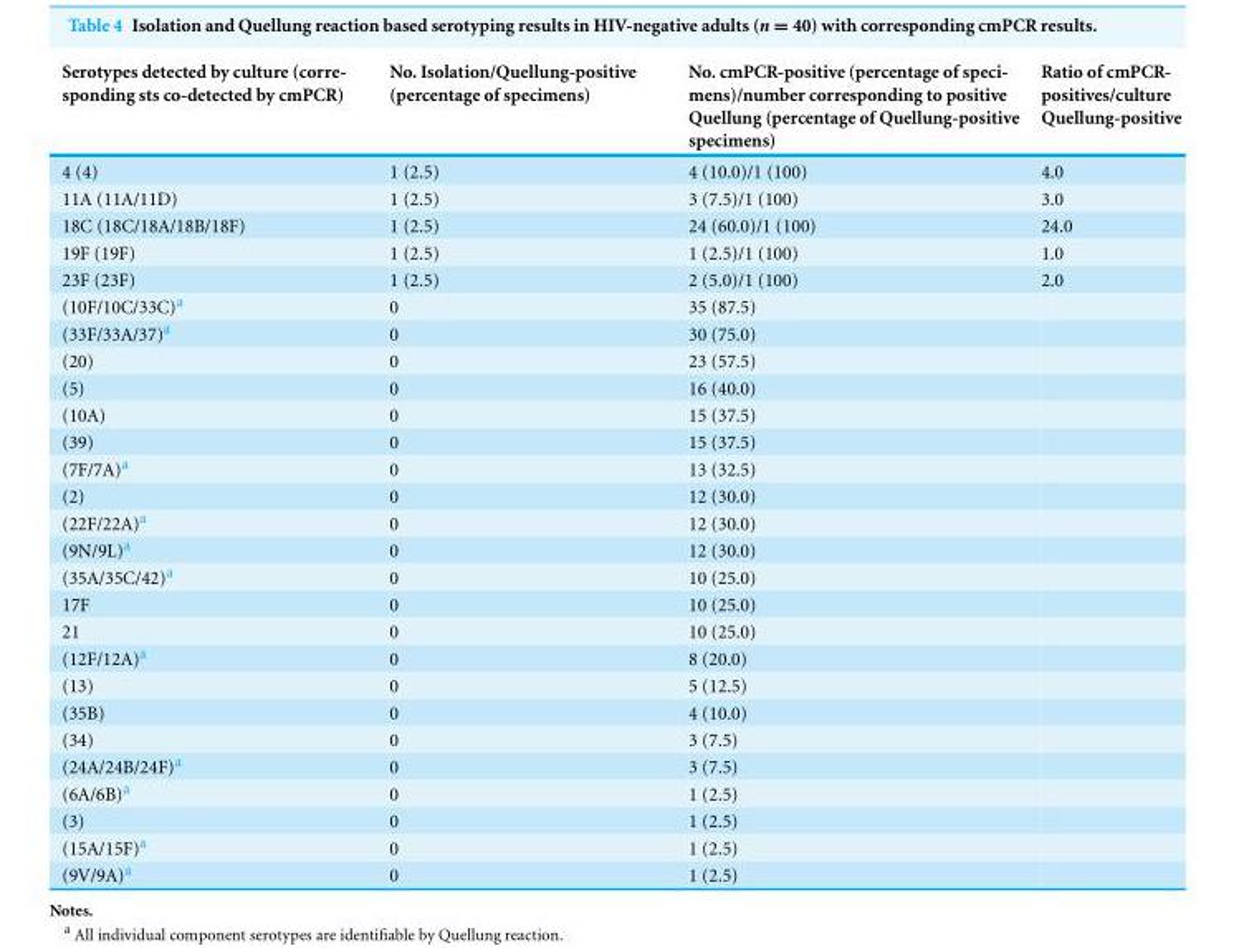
<table><thead><tr><td>Serotypes detected by culture (corre- sponding sts co-detected by cmPCR)</td><td>No. Isolation/Quellung-positive (percentage of specimens)</td><td>No. cmPCR-positive (percentage of speci- mens)/number corresponding to positive Quellung (percentage of Quellung-positive specimens)</td><td>Ratio of cmPCR- positives/culture Quellung-positive</td></tr></thead><tbody><tr><td>4 (4)</td><td>1 (2.5)</td><td>4 (10.0)/1 (100)</td><td>4.0</td></tr><tr><td>11A (11A/11D)</td><td>1 (2.5)</td><td>3 (7.5)/1 (100)</td><td>3.0</td></tr><tr><td>18C (18C/18A/18B/18F)</td><td>1 (2.5)</td><td>24 (60.0)/1 (100)</td><td>24.0</td></tr><tr><td>19F (19F)</td><td>1 (2.5)</td><td>1 (2.5)/1 (100)</td><td>1.0</td></tr><tr><td>23F (23F)</td><td>1 (2.5)</td><td>2 (5.0)/1 (100)</td><td>2.0</td></tr><tr><td>(10F/10C/33C)<sup>a</sup></td><td>0</td><td>35 (87.5)</td><td></td></tr><tr><td>(33F/33A/37)<sup>a</sup></td><td>0</td><td>30 (75.0)</td><td></td></tr><tr><td>(20)</td><td>0</td><td>23 (57.5)</td><td></td></tr><tr><td>(5)</td><td>0</td><td>16 (40.0)</td><td></td></tr><tr><td>(10A)</td><td>0</td><td>15 (37.5)</td><td></td></tr><tr><td>(39)</td><td>0</td><td>15 (37.5)</td><td></td></tr><tr><td>(7F/7A)<sup>a</sup></td><td>0</td><td>13 (32.5)</td><td></td></tr><tr><td>(2)</td><td>0</td><td>12 (30.0)</td><td></td></tr><tr><td>(22F/22A)<sup>a</sup></td><td>0</td><td>12 (30.0)</td><td></td></tr><tr><td>(9N/9L)<sup>a</sup></td><td>0</td><td>12 (30.0)</td><td></td></tr><tr><td>(35A/35C/42)<sup>a</sup></td><td>0</td><td>10 (25.0)</td><td></td></tr><tr><td>17F</td><td>0</td><td>10 (25.0)</td><td></td></tr><tr><td>21</td><td>0</td><td>10 (25.0)</td><td></td></tr><tr><td>(12F/12A)<sup>a</sup></td><td>0</td><td>8 (20.0)</td><td></td></tr><tr><td>(13)</td><td>0</td><td>5 (12.5)</td><td></td></tr><tr><td>(35B)</td><td>0</td><td>4 (10.0)</td><td></td></tr><tr><td>(34)</td><td>0</td><td>3 (7.5)</td><td></td></tr><tr><td>(24A/24B/24F)<sup>a</sup></td><td>0</td><td>3 (7.5)</td><td></td></tr><tr><td>(6A/6B)<sup>a</sup></td><td>0</td><td>1 (2.5)</td><td></td></tr><tr><td>(3)</td><td>0</td><td>1 (2.5)</td><td></td></tr><tr><td>(15A/15F)<sup>a</sup></td><td>0</td><td>1 (2.5)</td><td></td></tr><tr><td>(9V/9A)<sup>a</sup></td><td>0</td><td>1 (2.5)</td><td></td></tr></tbody></table>